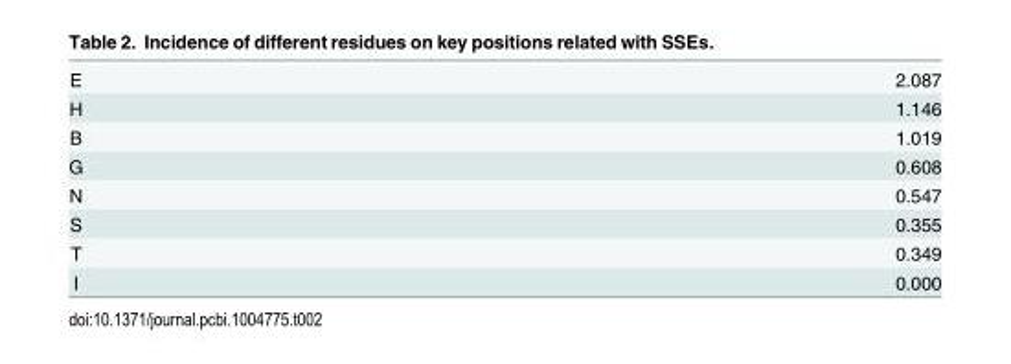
<table><tbody><tr><td>E</td><td>2.087</td></tr><tr><td>H</td><td>1.146</td></tr><tr><td>B</td><td>1.019</td></tr><tr><td>G</td><td>0.608</td></tr><tr><td>N</td><td>0.547</td></tr><tr><td>S</td><td>0.355</td></tr><tr><td>T</td><td>0.349</td></tr><tr><td>I</td><td>0.000</td></tr></tbody></table>